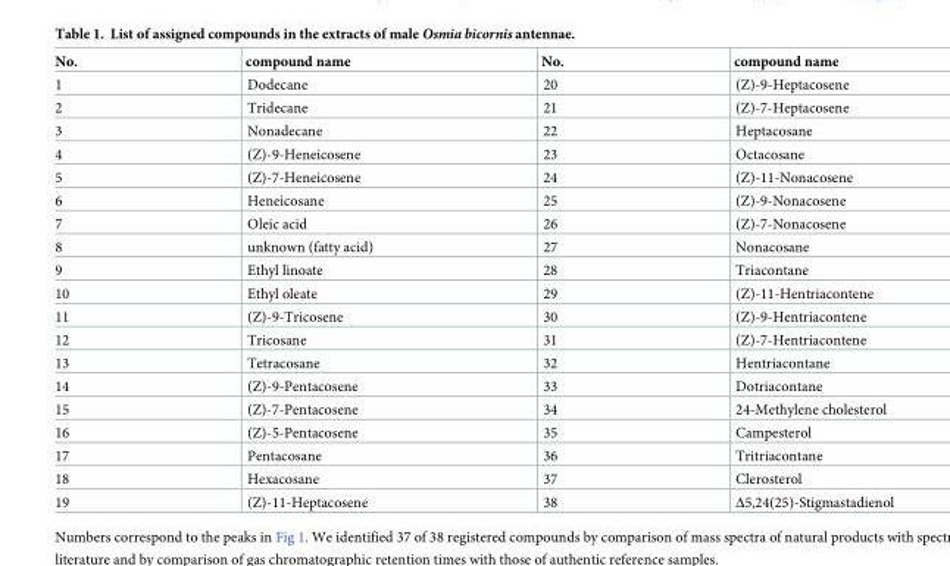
<table><thead><tr><td>No.</td><td>compound name</td><td>No.</td><td>compound name</td></tr></thead><tbody><tr><td>1</td><td>Dodecane</td><td>20</td><td>(Z)-9-Heptacosene</td></tr><tr><td>2</td><td>Tridecane</td><td>21</td><td>(Z)-7-Heptacosene</td></tr><tr><td>3</td><td>Nonadecane</td><td>22</td><td>Heptacosane</td></tr><tr><td>4</td><td>(Z)-9-Heneicosene</td><td>23</td><td>Octacosane</td></tr><tr><td>5</td><td>(Z)-7-Heneicosene</td><td>24</td><td>(Z)-11-Nonacosene</td></tr><tr><td>6</td><td>Heneicosane</td><td>25</td><td>(Z)-9-Nonacosene</td></tr><tr><td>7</td><td>Oleic acid</td><td>26</td><td>(Z)-7-Nonacosene</td></tr><tr><td>8</td><td>unknown (fatty acid)</td><td>27</td><td>Nonacosane</td></tr><tr><td>9</td><td>Ethyl linoate</td><td>28</td><td>Triacontane</td></tr><tr><td>10</td><td>Ethyl oleate</td><td>29</td><td>(Z)-11-Hentriacontene</td></tr><tr><td>11</td><td>(Z)-9-Tricosene</td><td>30</td><td>(Z)-9-Hentriacontene</td></tr><tr><td>12</td><td>Tricosane</td><td>31</td><td>(Z)-7-Hentriacontene</td></tr><tr><td>13</td><td>Tetracosane</td><td>32</td><td>Hentriacontane</td></tr><tr><td>14</td><td>(Z)-9-Pentacosene</td><td>33</td><td>Dotriacontane</td></tr><tr><td>15</td><td>(Z)-7-Pentacosene</td><td>34</td><td>24-Methylene cholesterol</td></tr><tr><td>16</td><td>(Z)-5-Pentacosene</td><td>35</td><td>Campesterol</td></tr><tr><td>17</td><td>Pentacosane</td><td>36</td><td>Tritriacontane</td></tr><tr><td>18</td><td>Hexacosane</td><td>37</td><td>Clerosterol</td></tr><tr><td>19</td><td>(Z)-11-Heptacosene</td><td>38</td><td>Δ5,24(25)-Stigmastadienol</td></tr></tbody></table>